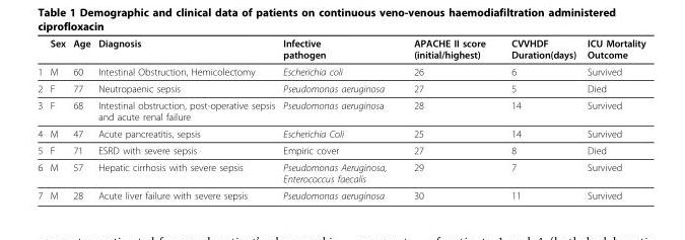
<table><thead><tr><td></td><td>Sex</td><td>Age</td><td>Diagnosis</td><td>Infective pathogen</td><td>APACHE II score (initial/highest)</td><td>CVVHDF Duration(days)</td><td>ICU Mortality Outcome</td></tr></thead><tbody><tr><td>1</td><td>M</td><td>60</td><td>Intestinal Obstruction, Hemicolectomy</td><td>Escherichia coli</td><td>26</td><td>6</td><td>Survived</td></tr><tr><td>2</td><td>F</td><td>77</td><td>Neutropaenic sepsis</td><td>Pseudomonas aeruginosa</td><td>27</td><td>5</td><td>Died</td></tr><tr><td>3</td><td>F</td><td>68</td><td>Intestinal obstruction, post-operative sepsis and acute renal failure</td><td>Pseudomonas aeruginosa</td><td>28</td><td>14</td><td>Survived</td></tr><tr><td>4</td><td>M</td><td>47</td><td>Acute pancreatitis, sepsis</td><td>Escherichia Coli</td><td>25</td><td>14</td><td>Survived</td></tr><tr><td>5</td><td>F</td><td>71</td><td>ESRD with severe sepsis</td><td>Empiric cover</td><td>27</td><td>8</td><td>Died</td></tr><tr><td>6</td><td>M</td><td>57</td><td>Hepatic cirrhosis with severe sepsis</td><td>Pseudomonas Aeruginosa, Enterococcus faecalis</td><td>29</td><td>7</td><td>Survived</td></tr><tr><td>7</td><td>M</td><td>28</td><td>Acute liver failure with severe sepsis</td><td>Pseudomonas aeruginosa</td><td>30</td><td>11</td><td>Survived</td></tr></tbody></table>